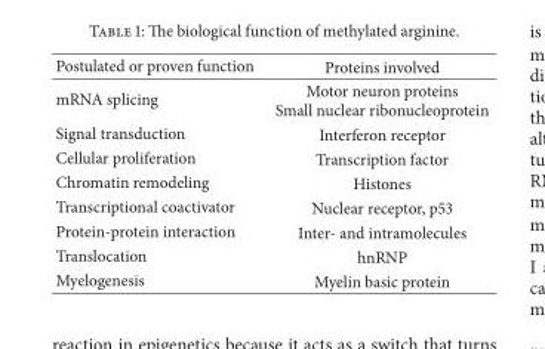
<table><thead><tr><td>Postulated or proven function</td><td>Proteins involved</td></tr></thead><tbody><tr><td>mRNA splicing</td><td>Motor neuron proteins Small nuclear ribonucleoprotein</td></tr><tr><td>Signal transduction</td><td>Interferon receptor</td></tr><tr><td>Cellular proliferation</td><td>Transcription factor</td></tr><tr><td>Chromatin remodeling</td><td>Histones</td></tr><tr><td>Transcriptional coactivator</td><td>Nuclear receptor, p53</td></tr><tr><td>Protein-protein interaction</td><td>Inter- and intramolecules</td></tr><tr><td>Translocation</td><td>hnRNP</td></tr><tr><td>Myelogenesis</td><td>Myelin basic protein</td></tr></tbody></table>